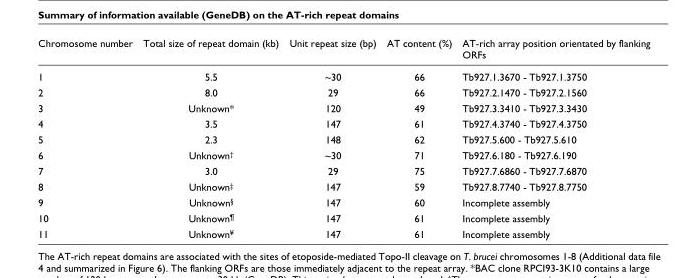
<table><thead><tr><td>Chromosome number</td><td>Total size of repeat domain (kb)</td><td>Unit repeat size (bp)</td><td>AT content (%)</td><td>AT-rich array position orientated by flanking ORFs</td></tr></thead><tbody><tr><td>1</td><td>5.5</td><td>~30</td><td>66</td><td>Tb927.1.3670 - Tb927.1.3750</td></tr><tr><td>2</td><td>8.0</td><td>29</td><td>66</td><td>Tb927.2.1470 - Tb927.2.1560</td></tr><tr><td>3</td><td>Unknown*</td><td>120</td><td>49</td><td>Tb927.3.3410 - Tb927.3.3430</td></tr><tr><td>4</td><td>3.5</td><td>147</td><td>61</td><td>Tb927.4.3740 - Tb927.4.3750</td></tr><tr><td>5</td><td>2.3</td><td>148</td><td>62</td><td>Tb927.5.600 - Tb927.5.610</td></tr><tr><td>6</td><td>Unknown<sup>†</sup></td><td>~30</td><td>71</td><td>Tb927.6.180 - Tb927.6.190</td></tr><tr><td>7</td><td>3.0</td><td>29</td><td>75</td><td>Tb927.7.6860 - Tb927.7.6870</td></tr><tr><td>8</td><td>Unknown<sup>‡</sup></td><td>147</td><td>59</td><td>Tb927.8.7740 - Tb927.8.7750</td></tr><tr><td>9</td><td>Unknown<sup>§</sup></td><td>147</td><td>60</td><td>Incomplete assembly</td></tr><tr><td>10</td><td>Unknown<sup>¶</sup></td><td>147</td><td>61</td><td>Incomplete assembly</td></tr><tr><td>11</td><td>Unknown<sup>¥</sup></td><td>147</td><td>61</td><td>Incomplete assembly</td></tr></tbody></table>